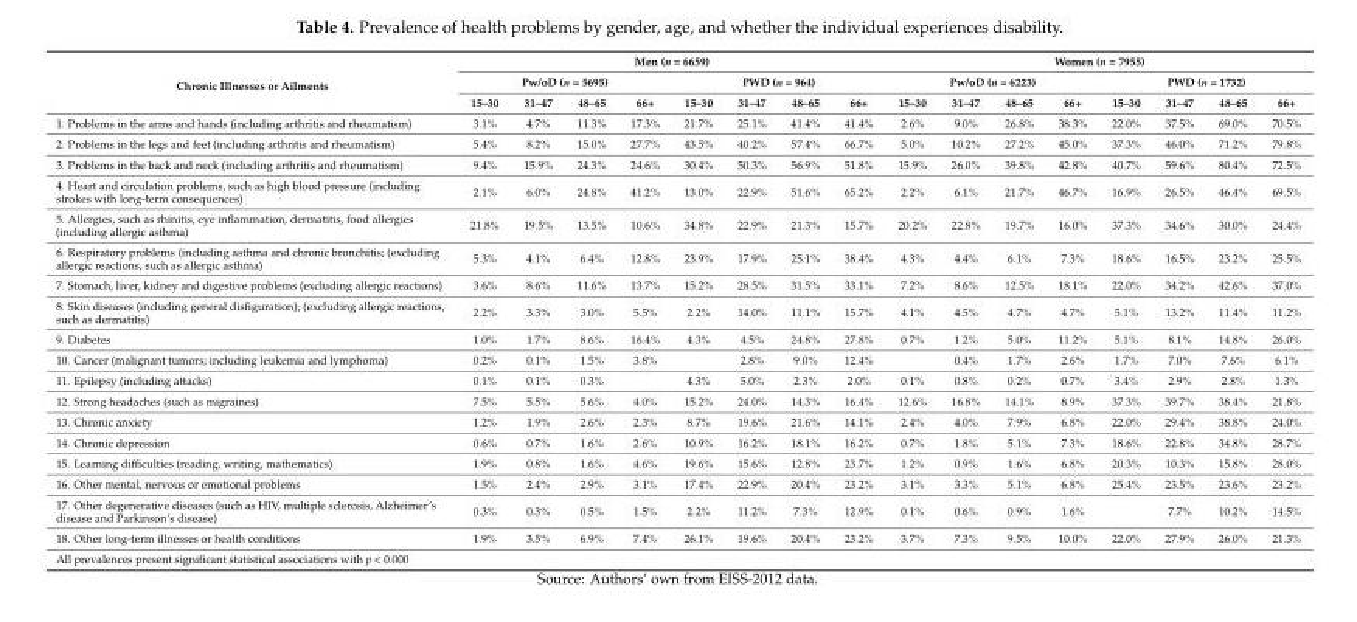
<table><thead><tr><td rowspan="3">Chronic Illnesses or Ailments</td><td colspan="8">Men (n = 6659)</td><td colspan="8">Women (n = 7955)</td></tr><tr><td colspan="4">Pw/oD (n = 5695)</td><td colspan="4">PWD (n = 964)</td><td colspan="4">Pw/oD (n = 6223)</td><td colspan="4">PWD (n = 1732)</td></tr><tr><td>15–30</td><td>31–47</td><td>48–65</td><td>66+</td><td>15–30</td><td>31–47</td><td>48–65</td><td>66+</td><td>15–30</td><td>31–47</td><td>48–65</td><td>66+</td><td>15–30</td><td>31–47</td><td>48–65</td><td>66+</td></tr></thead><tbody><tr><td>1. Problems in the arms and hands (including arthritis and rheumatism)</td><td>3.1%</td><td>4.7%</td><td>11.3%</td><td>17.3%</td><td>21.7%</td><td>25.1%</td><td>41.4%</td><td>41.4%</td><td>2.6%</td><td>9.0%</td><td>26.8%</td><td>38.3%</td><td>22.0%</td><td>37.5%</td><td>69.0%</td><td>70.5%</td></tr><tr><td>2. Problems in the legs and feet (including arthritis and rheumatism)</td><td>5.4%</td><td>8.2%</td><td>15.0%</td><td>27.7%</td><td>43.5%</td><td>40.2%</td><td>57.4%</td><td>66.7%</td><td>5.0%</td><td>10.2%</td><td>27.2%</td><td>45.0%</td><td>37.3%</td><td>46.0%</td><td>71.2%</td><td>79.8%</td></tr><tr><td>3. Problems in the back and neck (including arthritis and rheumatism)</td><td>9.4%</td><td>15.9%</td><td>24.3%</td><td>24.6%</td><td>30.4%</td><td>50.3%</td><td>56.9%</td><td>51.8%</td><td>15.9%</td><td>26.0%</td><td>39.8%</td><td>42.8%</td><td>40.7%</td><td>59.6%</td><td>80.4%</td><td>72.5%</td></tr><tr><td>4. Heart and circulation problems, such as high blood pressure (including strokes with long-term consequences)</td><td>2.1%</td><td>6.0%</td><td>24.8%</td><td>41.2%</td><td>13.0%</td><td>22.9%</td><td>51.6%</td><td>65.2%</td><td>2.2%</td><td>6.1%</td><td>21.7%</td><td>46.7%</td><td>16.9%</td><td>26.5%</td><td>46.4%</td><td>69.5%</td></tr><tr><td>5. Allergies, such as rhinitis, eye inflammation, dermatitis, food allergies (including allergic asthma)</td><td>21.8%</td><td>19.5%</td><td>13.5%</td><td>10.6%</td><td>34.8%</td><td>22.9%</td><td>21.3%</td><td>15.7%</td><td>20.2%</td><td>22.8%</td><td>19.7%</td><td>16.0%</td><td>37.3%</td><td>34.6%</td><td>30.0%</td><td>24.4%</td></tr><tr><td>6. Respiratory problems (including asthma and chronic bronchitis; (excluding allergic reactions, such as allergic asthma)</td><td>5.3%</td><td>4.1%</td><td>6.4%</td><td>12.8%</td><td>23.9%</td><td>17.9%</td><td>25.1%</td><td>38.4%</td><td>4.3%</td><td>4.4%</td><td>6.1%</td><td>7.3%</td><td>18.6%</td><td>16.5%</td><td>23.2%</td><td>25.5%</td></tr><tr><td>7. Stomach, liver, kidney and digestive problems (excluding allergic reactions)</td><td>3.6%</td><td>8.6%</td><td>11.6%</td><td>13.7%</td><td>15.2%</td><td>28.5%</td><td>31.5%</td><td>33.1%</td><td>7.2%</td><td>8.6%</td><td>12.5%</td><td>18.1%</td><td>22.0%</td><td>34.2%</td><td>42.6%</td><td>37.0%</td></tr><tr><td>8. Skin diseases (including general disfiguration); (excluding allergic reactions, such as dermatitis)</td><td>2.2%</td><td>3.3%</td><td>3.0%</td><td>5.5%</td><td>2.2%</td><td>14.0%</td><td>11.1%</td><td>15.7%</td><td>4.1%</td><td>4.5%</td><td>4.7%</td><td>4.7%</td><td>5.1%</td><td>13.2%</td><td>11.4%</td><td>11.2%</td></tr><tr><td>9. Diabetes</td><td>1.0%</td><td>1.7%</td><td>8.6%</td><td>16.4%</td><td>4.3%</td><td>4.5%</td><td>24.8%</td><td>27.8%</td><td>0.7%</td><td>1.2%</td><td>5.0%</td><td>11.2%</td><td>5.1%</td><td>8.1%</td><td>14.8%</td><td>26.0%</td></tr><tr><td>10. Cancer (malignant tumors; including leukemia and lymphoma)</td><td>0.2%</td><td>0.1%</td><td>1.5%</td><td>3.8%</td><td></td><td>2.8%</td><td>9.0%</td><td>12.4%</td><td></td><td>0.4%</td><td>1.7%</td><td>2.6%</td><td>1.7%</td><td>7.0%</td><td>7.6%</td><td>6.1%</td></tr><tr><td>11. Epilepsy (including attacks)</td><td>0.1%</td><td>0.1%</td><td>0.3%</td><td></td><td>4.3%</td><td>5.0%</td><td>2.3%</td><td>2.0%</td><td>0.1%</td><td>0.8%</td><td>0.2%</td><td>0.7%</td><td>3.4%</td><td>2.9%</td><td>2.8%</td><td>1.3%</td></tr><tr><td>12. Strong headaches (such as migraines)</td><td>7.5%</td><td>5.5%</td><td>5.6%</td><td>4.0%</td><td>15.2%</td><td>24.0%</td><td>14.3%</td><td>16.4%</td><td>12.6%</td><td>16.8%</td><td>14.1%</td><td>8.9%</td><td>37.3%</td><td>39.7%</td><td>38.4%</td><td>21.8%</td></tr><tr><td>13. Chronic anxiety</td><td>1.2%</td><td>1.9%</td><td>2.6%</td><td>2.3%</td><td>8.7%</td><td>19.6%</td><td>21.6%</td><td>14.1%</td><td>2.4%</td><td>4.0%</td><td>7.9%</td><td>6.8%</td><td>22.0%</td><td>29.4%</td><td>38.8%</td><td>24.0%</td></tr><tr><td>14. Chronic depression</td><td>0.6%</td><td>0.7%</td><td>1.6%</td><td>2.6%</td><td>10.9%</td><td>16.2%</td><td>18.1%</td><td>16.2%</td><td>0.7%</td><td>1.8%</td><td>5.1%</td><td>7.3%</td><td>18.6%</td><td>22.8%</td><td>34.8%</td><td>28.7%</td></tr><tr><td>15. Learning difficulties (reading, writing, mathematics)</td><td>1.9%</td><td>0.8%</td><td>1.6%</td><td>4.6%</td><td>19.6%</td><td>15.6%</td><td>12.8%</td><td>23.7%</td><td>1.2%</td><td>0.9%</td><td>1.6%</td><td>6.8%</td><td>20.3%</td><td>10.3%</td><td>15.8%</td><td>28.0%</td></tr><tr><td>16. Other mental, nervous or emotional problems</td><td>1.5%</td><td>2.4%</td><td>2.9%</td><td>3.1%</td><td>17.4%</td><td>22.9%</td><td>20.4%</td><td>23.2%</td><td>3.1%</td><td>3.3%</td><td>5.1%</td><td>6.8%</td><td>25.4%</td><td>23.5%</td><td>23.6%</td><td>23.2%</td></tr><tr><td>17. Other degenerative diseases (such as HIV, multiple sclerosis, Alzheimer’s disease and Parkinson’s disease)</td><td>0.3%</td><td>0.3%</td><td>0.5%</td><td>1.5%</td><td>2.2%</td><td>11.2%</td><td>7.3%</td><td>12.9%</td><td>0.1%</td><td>0.6%</td><td>0.9%</td><td>1.6%</td><td></td><td>7.7%</td><td>10.2%</td><td>14.5%</td></tr><tr><td>18. Other long-term illnesses or health conditions</td><td>1.9%</td><td>3.5%</td><td>6.9%</td><td>7.4%</td><td>26.1%</td><td>19.6%</td><td>20.4%</td><td>23.2%</td><td>3.7%</td><td>7.3%</td><td>9.5%</td><td>10.0%</td><td>22.0%</td><td>27.9%</td><td>26.0%</td><td>21.3%</td></tr><tr><td>All prevalences present significant statistical associations with p &lt; 0.000</td><td></td><td></td><td></td><td></td><td></td><td></td><td></td><td></td><td></td><td></td><td></td><td></td><td></td><td></td><td></td><td></td></tr></tbody></table>